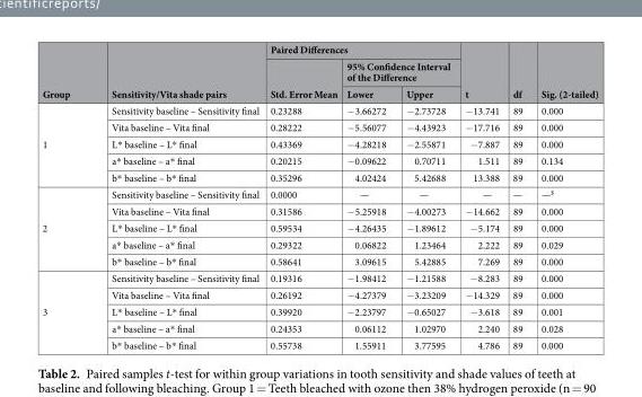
<table><thead><tr><td rowspan="3">Group</td><td rowspan="3">Sensitivity/Vita shade pairs</td><td colspan="3">Paired Differences</td><td rowspan="3">t</td><td rowspan="3">df</td><td rowspan="3">Sig. (2-tailed)</td></tr><tr><td rowspan="2">Std. Error Mean</td><td colspan="2">95% Confidence Interval of the Difference</td></tr><tr><td>Lower</td><td>Upper</td></tr></thead><tbody><tr><td rowspan="5">1</td><td>Sensitivity baseline – Sensitivity final</td><td>0.23288</td><td>−3.66272</td><td>−2.73728</td><td>−13.741</td><td>89</td><td>0.000</td></tr><tr><td>Vita baseline – Vita final</td><td>0.28222</td><td>−5.56077</td><td>−4.43923</td><td>−17.716</td><td>89</td><td>0.000</td></tr><tr><td>L* baseline – L* final</td><td>0.43369</td><td>−4.28218</td><td>−2.55871</td><td>−7.887</td><td>89</td><td>0.000</td></tr><tr><td>a* baseline – a* final</td><td>0.20215</td><td>−0.09622</td><td>0.70711</td><td>1.511</td><td>89</td><td>0.134</td></tr><tr><td>b* baseline – b* final</td><td>0.35296</td><td>4.02424</td><td>5.42688</td><td>13.388</td><td>89</td><td>0.000</td></tr><tr><td rowspan="5">2</td><td>Sensitivity baseline – Sensitivity final</td><td>0.0000</td><td>—</td><td>—</td><td>—</td><td>—</td><td>—<sup>$</sup></td></tr><tr><td>Vita baseline – Vita final</td><td>0.31586</td><td>−5.25918</td><td>−4.00273</td><td>−14.662</td><td>89</td><td>0.000</td></tr><tr><td>L* baseline – L* final</td><td>0.59534</td><td>−4.26435</td><td>−1.89612</td><td>−5.174</td><td>89</td><td>0.000</td></tr><tr><td>a* baseline – a* final</td><td>0.29322</td><td>0.06822</td><td>1.23464</td><td>2.222</td><td>89</td><td>0.029</td></tr><tr><td>b* baseline – b* final</td><td>0.58641</td><td>3.09615</td><td>5.42885</td><td>7.269</td><td>89</td><td>0.000</td></tr><tr><td rowspan="5">3</td><td>Sensitivity baseline – Sensitivity final</td><td>0.19316</td><td>−1.98412</td><td>−1.21588</td><td>−8.283</td><td>89</td><td>0.000</td></tr><tr><td>Vita baseline – Vita final</td><td>0.26192</td><td>−4.27379</td><td>−3.23209</td><td>−14.329</td><td>89</td><td>0.000</td></tr><tr><td>L* baseline – L* final</td><td>0.39920</td><td>−2.23797</td><td>−0.65027</td><td>−3.618</td><td>89</td><td>0.001</td></tr><tr><td>a* baseline – a* final</td><td>0.24353</td><td>0.06112</td><td>1.02970</td><td>2.240</td><td>89</td><td>0.028</td></tr><tr><td>b* baseline – b* final</td><td>0.55738</td><td>1.55911</td><td>3.77595</td><td>4.786</td><td>89</td><td>0.000</td></tr></tbody></table>